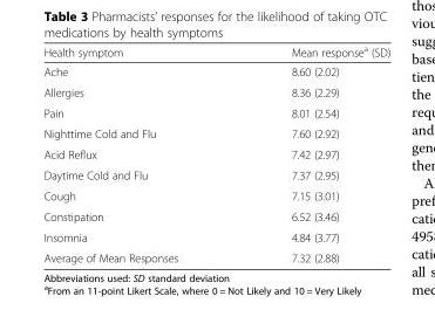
<table><thead><tr><td>Health symptom</td><td>Mean response<sup>a</sup> (SD)</td></tr></thead><tbody><tr><td>Ache</td><td>8.60 (2.02)</td></tr><tr><td>Allergies</td><td>8.36 (2.29)</td></tr><tr><td>Pain</td><td>8.01 (2.54)</td></tr><tr><td>Nighttime Cold and Flu</td><td>7.60 (2.92)</td></tr><tr><td>Acid Reflux</td><td>7.42 (2.97)</td></tr><tr><td>Daytime Cold and Flu</td><td>7.37 (2.95)</td></tr><tr><td>Cough</td><td>7.15 (3.01)</td></tr><tr><td>Constipation</td><td>6.52 (3.46)</td></tr><tr><td>Insomnia</td><td>4.84 (3.77)</td></tr><tr><td>Average of Mean Responses</td><td>7.32 (2.88)</td></tr></tbody></table>